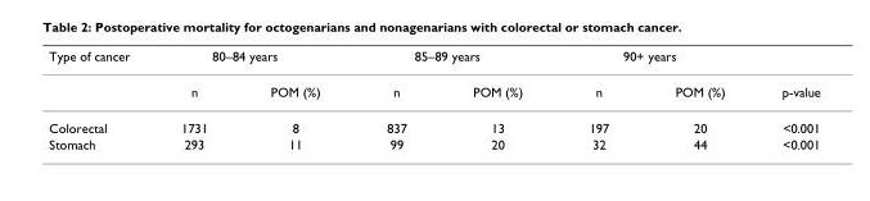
<table><thead><tr><td rowspan="2">Type of cancer</td><td colspan="2">80–84 years</td><td colspan="2">85–89 years</td><td colspan="2">90+ years</td><td rowspan="2">p-value</td></tr><tr><td>n</td><td>POM (%)</td><td>n</td><td>POM (%)</td><td>n</td><td>POM (%)</td></tr></thead><tbody><tr><td>Colorectal</td><td>1731</td><td>8</td><td>837</td><td>13</td><td>197</td><td>20</td><td>&lt;0.001</td></tr><tr><td>Stomach</td><td>293</td><td>11</td><td>99</td><td>20</td><td>32</td><td>44</td><td>&lt;0.001</td></tr></tbody></table>